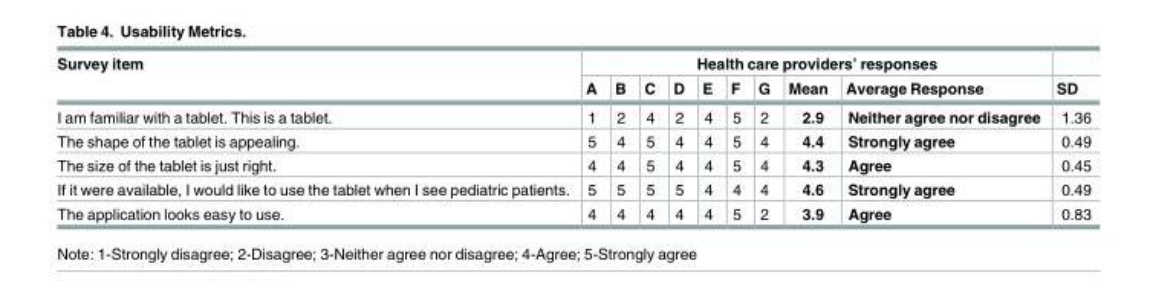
<table><thead><tr><td rowspan="2">Survey item</td><td colspan="9">Health care providers’ responses</td><td rowspan="2">SD</td></tr><tr><td>A</td><td>B</td><td>C</td><td>D</td><td>E</td><td>F</td><td>G</td><td>Mean</td><td>Average Response</td></tr></thead><tbody><tr><td>I am familiar with a tablet. This is a tablet.</td><td>1</td><td>2</td><td>4</td><td>2</td><td>4</td><td>5</td><td>2</td><td>2.9</td><td>Neither agree nor disagree</td><td>1.36</td></tr><tr><td>The shape of the tablet is appealing.</td><td>5</td><td>4</td><td>5</td><td>4</td><td>4</td><td>5</td><td>4</td><td>4.4</td><td>Strongly agree</td><td>0.49</td></tr><tr><td>The size of the tablet is just right.</td><td>4</td><td>4</td><td>5</td><td>4</td><td>4</td><td>5</td><td>4</td><td>4.3</td><td>Agree</td><td>0.45</td></tr><tr><td>If it were available, I would like to use the tablet when I see pediatric patients.</td><td>5</td><td>5</td><td>5</td><td>5</td><td>4</td><td>4</td><td>4</td><td>4.6</td><td>Strongly agree</td><td>0.49</td></tr><tr><td>The application looks easy to use.</td><td>4</td><td>4</td><td>4</td><td>4</td><td>4</td><td>5</td><td>2</td><td>3.9</td><td>Agree</td><td>0.83</td></tr></tbody></table>